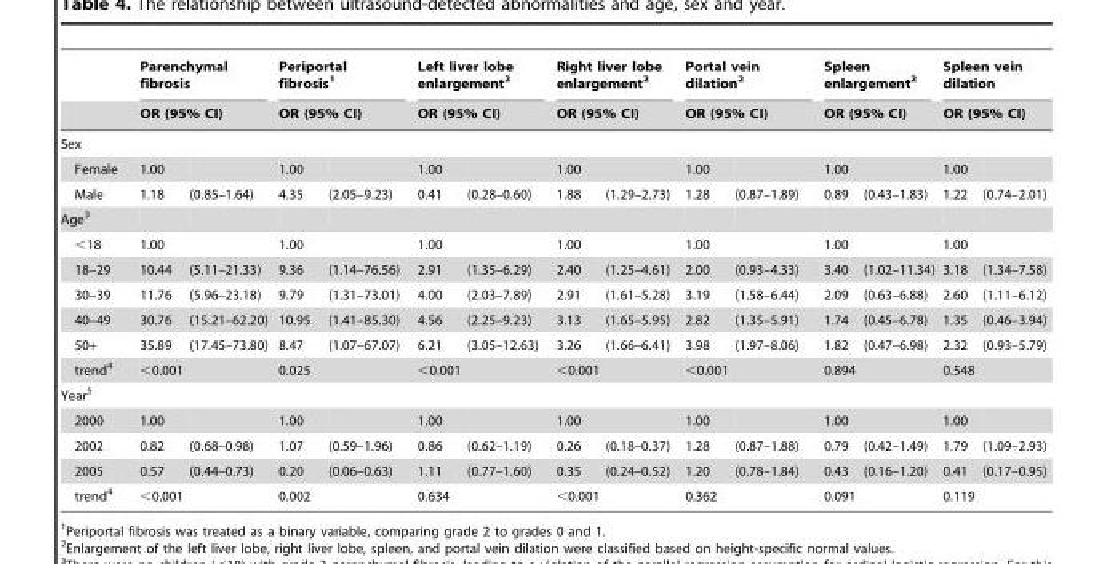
<table><thead><tr><td rowspan="3">Sex</td><td rowspan="2" colspan="2">Parenchymal fibrosis OR (95% CI)</td><td rowspan="2" colspan="2">Periportal fibrosis<sup>1</sup> OR (95% CI)</td><td rowspan="2" colspan="2">Left liver lobe enlargement<sup>2</sup> OR (95% CI)</td><td rowspan="2" colspan="2">Right liver lobe enlargement<sup>2</sup> OR (95% CI)</td><td rowspan="2" colspan="2">Portal vein dilation<sup>2</sup> OR (95% CI)</td><td rowspan="2" colspan="2">Spleen enlargement<sup>2</sup> OR (95% CI)</td><td rowspan="2" colspan="2">Spleen vein dilation OR (95% CI)</td></tr><tr></tr><tr><td></td><td></td><td></td><td></td><td></td><td></td><td></td><td></td><td></td><td></td><td></td><td></td><td></td><td></td></tr></thead><tbody><tr><td>Female</td><td>1.00</td><td></td><td>1.00</td><td></td><td>1.00</td><td></td><td>1.00</td><td></td><td>1.00</td><td></td><td>1.00</td><td></td><td>1.00</td><td></td></tr><tr><td>Male</td><td>1.18</td><td>(0.85–1.64)</td><td>4.35</td><td>(2.05–9.23)</td><td>0.41</td><td>(0.28–0.60)</td><td>1.88</td><td>(1.29–2.73)</td><td>1.28</td><td>(0.87–1.89)</td><td>0.89</td><td>(0.43–1.83)</td><td>1.22</td><td>(0.74–2.01)</td></tr><tr><td colspan="15">Age<sup>3</sup></td></tr><tr><td>&lt;18</td><td>1.00</td><td></td><td>1.00</td><td></td><td>1.00</td><td></td><td>1.00</td><td></td><td>1.00</td><td></td><td>1.00</td><td></td><td>1.00</td><td></td></tr><tr><td>18–29</td><td>10.44</td><td>(5.11–21.33)</td><td>9.36</td><td>(1.14–76.56)</td><td>2.91</td><td>(1.35–6.29)</td><td>2.40</td><td>(1.25–4.61)</td><td>2.00</td><td>(0.93–4.33)</td><td>3.40</td><td>(1.02–11.34)</td><td>3.18</td><td>(1.34–7.58)</td></tr><tr><td>30–39</td><td>11.76</td><td>(5.96–23.18)</td><td>9.79</td><td>(1.31–73.01)</td><td>4.00</td><td>(2.03–7.89)</td><td>2.91</td><td>(1.61–5.28)</td><td>3.19</td><td>(1.58–6.44)</td><td>2.09</td><td>(0.63–6.88)</td><td>2.60</td><td>(1.11–6.12)</td></tr><tr><td>40–49</td><td>30.76</td><td>(15.21–62.20)</td><td>10.95</td><td>(1.41–85.30)</td><td>4.56</td><td>(2.25–9.23)</td><td>3.13</td><td>(1.65–5.95)</td><td>2.82</td><td>(1.35–5.91)</td><td>1.74</td><td>(0.45–6.78)</td><td>1.35</td><td>(0.46–3.94)</td></tr><tr><td>50+</td><td>35.89</td><td>(17.45–73.80)</td><td>8.47</td><td>(1.07–67.07)</td><td>6.21</td><td>(3.05–12.63)</td><td>3.26</td><td>(1.66–6.41)</td><td>3.98</td><td>(1.97–8.06)</td><td>1.82</td><td>(0.47–6.98)</td><td>2.32</td><td>(0.93–5.79)</td></tr><tr><td>trend<sup>4</sup></td><td colspan="2">&lt;0.001</td><td colspan="2">0.025</td><td colspan="2">&lt;0.001</td><td colspan="2">&lt;0.001</td><td colspan="2">&lt;0.001</td><td colspan="2">0.894</td><td colspan="2">0.548</td></tr><tr><td colspan="15">Year<sup>5</sup></td></tr><tr><td>2000</td><td>1.00</td><td></td><td>1.00</td><td></td><td>1.00</td><td></td><td>1.00</td><td></td><td>1.00</td><td></td><td>1.00</td><td></td><td>1.00</td><td></td></tr><tr><td>2002</td><td>0.82</td><td>(0.68–0.98)</td><td>1.07</td><td>(0.59–1.96)</td><td>0.86</td><td>(0.62–1.19)</td><td>0.26</td><td>(0.18–0.37)</td><td>1.28</td><td>(0.87–1.88)</td><td>0.79</td><td>(0.42–1.49)</td><td>1.79</td><td>(1.09–2.93)</td></tr><tr><td>2005</td><td>0.57</td><td>(0.44–0.73)</td><td>0.20</td><td>(0.06–0.63)</td><td>1.11</td><td>(0.77–1.60)</td><td>0.35</td><td>(0.24–0.52)</td><td>1.20</td><td>(0.78–1.84)</td><td>0.43</td><td>(0.16–1.20)</td><td>0.41</td><td>(0.17–0.95)</td></tr><tr><td>trend<sup>4</sup></td><td colspan="2">&lt;0.001</td><td colspan="2">0.002</td><td colspan="2">0.634</td><td colspan="2">&lt;0.001</td><td colspan="2">0.362</td><td colspan="2">0.091</td><td colspan="2">0.119</td></tr></tbody></table>